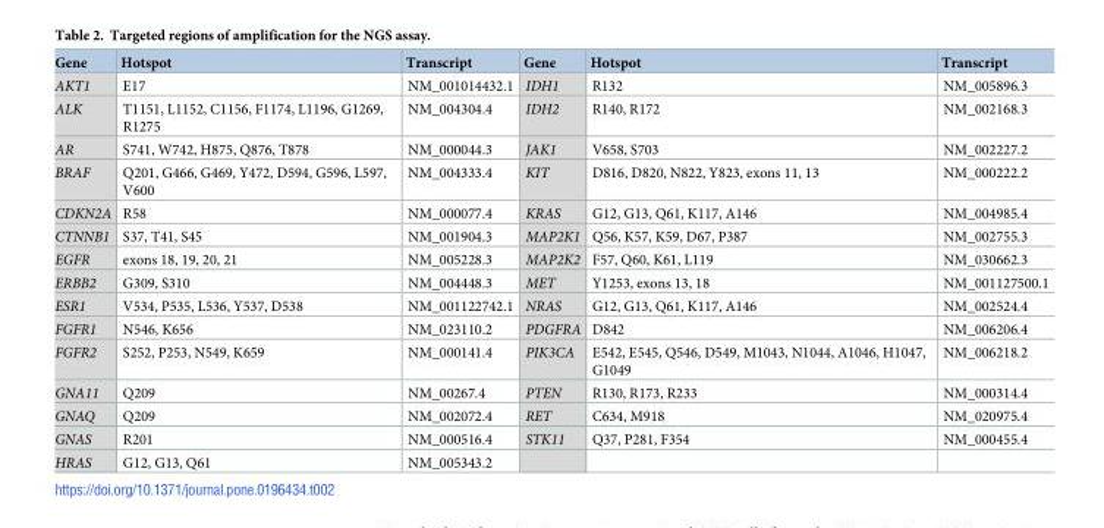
<table><thead><tr><td>Gene</td><td>Hotspot</td><td>Transcript</td><td>Gene</td><td>Hotspot</td><td>Transcript</td></tr></thead><tbody><tr><td>AKT1</td><td>E17</td><td>NM_001014432.1</td><td>IDH1</td><td>R132</td><td>NM_005896.3</td></tr><tr><td>ALK</td><td>T1151, L1152, C1156, F1174, L1196, G1269, R1275</td><td>NM_004304.4</td><td>IDH2</td><td>R140, R172</td><td>NM_002168.3</td></tr><tr><td>AR</td><td>S741, W742, H875, Q876, T878</td><td>NM_000044.3</td><td>JAK1</td><td>V658, S703</td><td>NM_002227.2</td></tr><tr><td>BRAF</td><td>Q201, G466, G469, Y472, D594, G596, L597, V600</td><td>NM_004333.4</td><td>KIT</td><td>D816, D820, N822, Y823, exons 11, 13</td><td>NM_000222.2</td></tr><tr><td>CDKN2A</td><td>R58</td><td>NM_000077.4</td><td>KRAS</td><td>G12, G13, Q61, K117, A146</td><td>NM_004985.4</td></tr><tr><td>CTNNB1</td><td>S37, T41, S45</td><td>NM_001904.3</td><td>MAP2K1</td><td>Q56, K57, K59, D67, P387</td><td>NM_002755.3</td></tr><tr><td>EGFR</td><td>exons 18, 19, 20, 21</td><td>NM_005228.3</td><td>MAP2K2</td><td>F57, Q60, K61, L119</td><td>NM_030662.3</td></tr><tr><td>ERBB2</td><td>G309, S310</td><td>NM_004448.3</td><td>MET</td><td>Y1253, exons 13, 18</td><td>NM_001127500.1</td></tr><tr><td>ESR1</td><td>V534, P535, L536, Y537, D538</td><td>NM_001122742.1</td><td>NRAS</td><td>G12, G13, Q61, K117, A146</td><td>NM_002524.4</td></tr><tr><td>FGFR1</td><td>N546, K656</td><td>NM_023110.2</td><td>PDGFRA</td><td>D842</td><td>NM_006206.4</td></tr><tr><td>FGFR2</td><td>S252, P253, N549, K659</td><td>NM_000141.4</td><td>PIK3CA</td><td>E542, E545, Q546, D549, M1043, N1044, A1046, H1047, G1049</td><td>NM_006218.2</td></tr><tr><td>GNA11</td><td>Q209</td><td>NM_00267.4</td><td>PTEN</td><td>R130, R173, R233</td><td>NM_000314.4</td></tr><tr><td>GNAQ</td><td>Q209</td><td>NM_002072.4</td><td>RET</td><td>C634, M918</td><td>NM_020975.4</td></tr><tr><td>GNAS</td><td>R201</td><td>NM_000516.4</td><td>STK11</td><td>Q37, P281, F354</td><td>NM_000455.4</td></tr><tr><td>HRAS</td><td>G12, G13, Q61</td><td>NM_005343.2</td><td></td><td></td><td></td></tr></tbody></table>